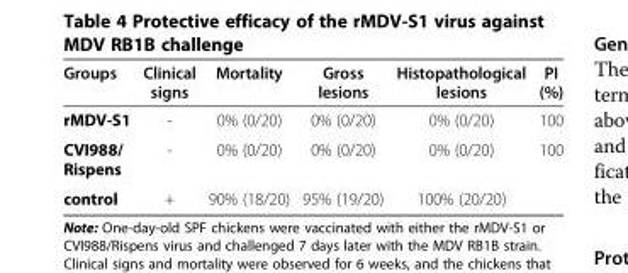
<table><thead><tr><td>Groups</td><td>Clinical signs</td><td>Mortality</td><td>Gross lesions</td><td>Histopathological lesions</td><td>PI (%)</td></tr></thead><tbody><tr><td>rMDV-S1</td><td>-</td><td>0% (0/20)</td><td>0% (0/20)</td><td>0% (0/20)</td><td>100</td></tr><tr><td>CVI988/ Rispens</td><td>-</td><td>0% (0/20)</td><td>0% (0/20)</td><td>0% (0/20)</td><td>100</td></tr><tr><td>control</td><td>+</td><td>90% (18/20)</td><td>95% (19/20)</td><td>100% (20/20)</td><td></td></tr></tbody></table>